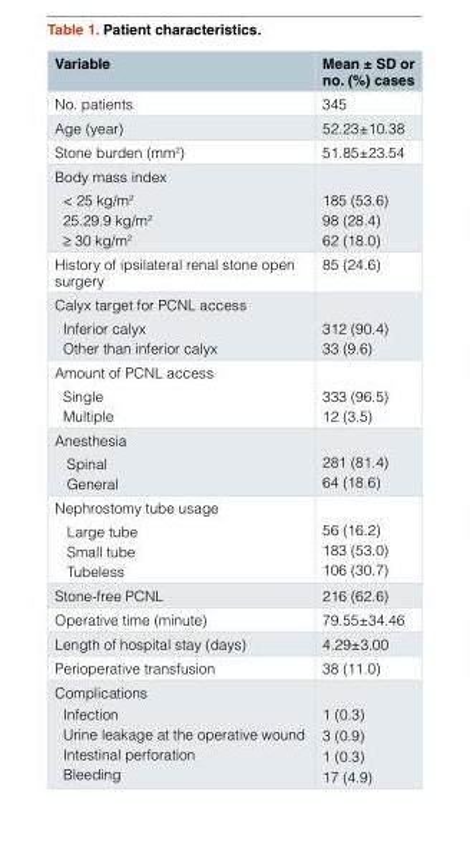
<table><thead><tr><td>Variable</td><td>Mean ± SD or no. (%) cases</td></tr></thead><tbody><tr><td>No. patients</td><td>345</td></tr><tr><td>Age (year)</td><td>52.23±10.38</td></tr><tr><td>Stone burden (mm<sup>2</sup>)</td><td>51.85±23.54</td></tr><tr><td>Body mass index &lt; 25 kg/m<sup>2</sup> 25.29.9 kg/m<sup>2</sup> ≥ 30 kg/m<sup>2</sup></td><td>185 (53.6) 98 (28.4) 62 (18.0)</td></tr><tr><td>History of ipsilateral renal stone open surgery</td><td>85 (24.6)</td></tr><tr><td>Calyx target for PCNL access Inferior calyx Other than inferior calyx</td><td>312 (90.4) 33 (9.6)</td></tr><tr><td>Amount of PCNL access Single Multiple</td><td>333 (96.5) 12 (3.5)</td></tr><tr><td>Anesthesia Spinal General</td><td>281 (81.4) 64 (18.6)</td></tr><tr><td>Nephrostomy tube usage Large tube Small tube Tubeless</td><td>56 (16.2) 183 (53.0) 106 (30.7)</td></tr><tr><td>Stone-free PCNL</td><td>216 (62.6)</td></tr><tr><td>Operative time (minute)</td><td>79.55±34.46</td></tr><tr><td>Length of hospital stay (days)</td><td>4.29±3.00</td></tr><tr><td>Perioperative transfusion</td><td>38 (11.0)</td></tr><tr><td>Complications Infection Urine leakage at the operative wound Intestinal perforation Bleeding</td><td>1 (0.3) 3 (0.9) 1 (0.3) 17 (4.9)</td></tr></tbody></table>